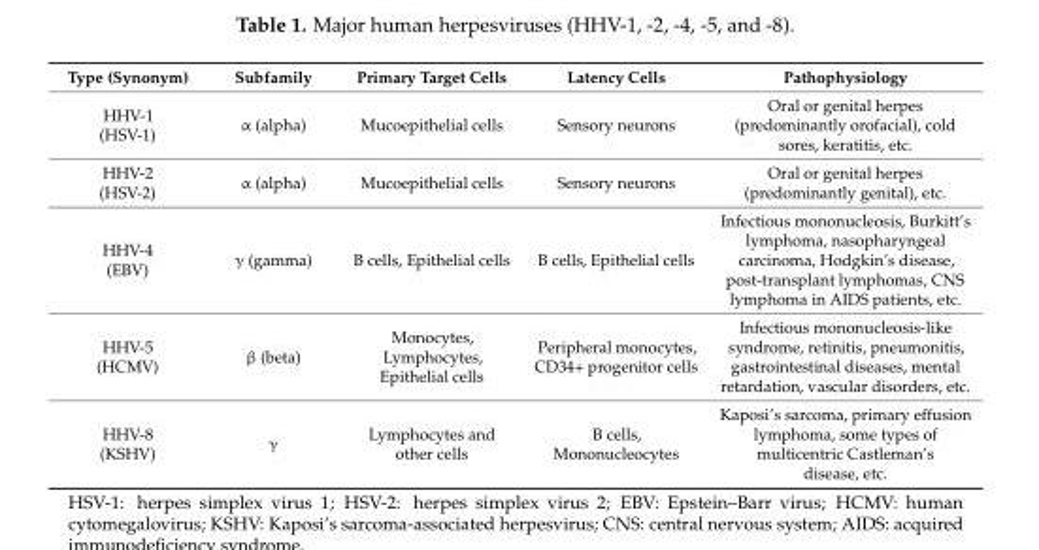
<table><thead><tr><td>Type (Synonym)</td><td>Subfamily</td><td>Primary Target Cells</td><td>Latency Cells</td><td>Pathophysiology</td></tr></thead><tbody><tr><td>HHV-1 (HSV-1)</td><td>α (alpha)</td><td>Mucoepithelial cells</td><td>Sensory neurons</td><td>Oral or genital herpes (predominantly orofacial), cold sores, keratitis, etc.</td></tr><tr><td>HHV-2 (HSV-2)</td><td>α (alpha)</td><td>Mucoepithelial cells</td><td>Sensory neurons</td><td>Oral or genital herpes (predominantly genital), etc.</td></tr><tr><td>HHV-4 (EBV)</td><td>γ (gamma)</td><td>B cells, Epithelial cells</td><td>B cells, Epithelial cells</td><td>Infectious mononucleosis, Burkitt’s lymphoma, nasopharyngeal carcinoma, Hodgkin’s disease, post-transplant lymphomas, CNS lymphoma in AIDS patients, etc.</td></tr><tr><td>HHV-5 (HCMV)</td><td>β (beta)</td><td>Monocytes, Lymphocytes, Epithelial cells</td><td>Peripheral monocytes, CD34+ progenitor cells</td><td>Infectious mononucleosis-like syndrome, retinitis, pneumonitis, gastrointestinal diseases, mental retardation, vascular disorders, etc.</td></tr><tr><td>HHV-8 (KSHV)</td><td>γ</td><td>Lymphocytes and other cells</td><td>B cells, Mononucleocytes</td><td>Kaposi’s sarcoma, primary effusion lymphoma, some types of multicentric Castleman’s disease, etc.</td></tr></tbody></table>